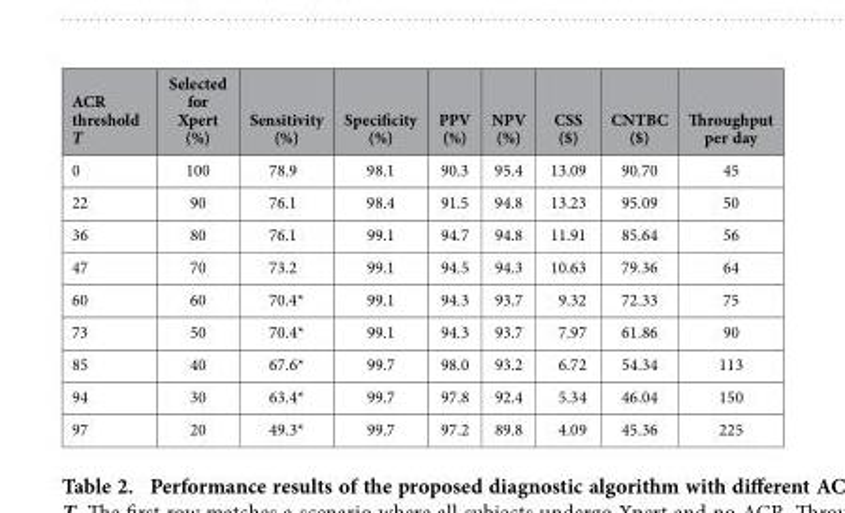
<table><thead><tr><td>ACR threshold T</td><td>Selected for Xpert (%)</td><td>Sensitivity (%)</td><td>Specificity (%)</td><td>PPV (%)</td><td>NPV (%)</td><td>CSS ($)</td><td>CNTBC ($)</td><td>Throughput per day</td></tr></thead><tbody><tr><td>0</td><td>100</td><td>78.9</td><td>98.1</td><td>90.3</td><td>95.4</td><td>13.09</td><td>90.70</td><td>45</td></tr><tr><td>22</td><td>90</td><td>76.1</td><td>98.4</td><td>91.5</td><td>94.8</td><td>13.23</td><td>95.09</td><td>50</td></tr><tr><td>36</td><td>80</td><td>76.1</td><td>99.1</td><td>94.7</td><td>94.8</td><td>11.91</td><td>85.64</td><td>56</td></tr><tr><td>47</td><td>70</td><td>73.2</td><td>99.1</td><td>94.5</td><td>94.3</td><td>10.63</td><td>79.36</td><td>64</td></tr><tr><td>60</td><td>60</td><td>70.4*</td><td>99.1</td><td>94.3</td><td>93.7</td><td>9.32</td><td>72.33</td><td>75</td></tr><tr><td>73</td><td>50</td><td>70.4*</td><td>99.1</td><td>94.3</td><td>93.7</td><td>7.97</td><td>61.86</td><td>90</td></tr><tr><td>85</td><td>40</td><td>67.6*</td><td>99.7</td><td>98.0</td><td>93.2</td><td>6.72</td><td>54.34</td><td>113</td></tr><tr><td>94</td><td>30</td><td>63.4*</td><td>99.7</td><td>97.8</td><td>92.4</td><td>5.34</td><td>46.04</td><td>150</td></tr><tr><td>97</td><td>20</td><td>49.3*</td><td>99.7</td><td>97.2</td><td>89.8</td><td>4.09</td><td>45.36</td><td>225</td></tr></tbody></table>